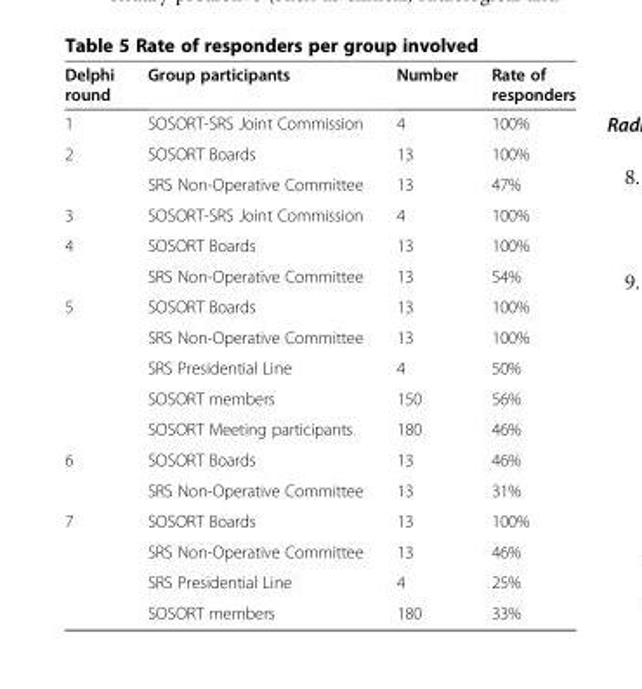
<table><thead><tr><td>Delphi round</td><td>Group participants</td><td>Number</td><td>Rate of responders</td></tr></thead><tbody><tr><td>1</td><td>SOSORT-SRS Joint Commission</td><td>4</td><td>100%</td></tr><tr><td rowspan="2">2</td><td>SOSORT Boards</td><td>13</td><td>100%</td></tr><tr><td>SRS Non-Operative Committee</td><td>13</td><td>47%</td></tr><tr><td>3</td><td>SOSORT-SRS Joint Commission</td><td>4</td><td>100%</td></tr><tr><td rowspan="2">4</td><td>SOSORT Boards</td><td>13</td><td>100%</td></tr><tr><td>SRS Non-Operative Committee</td><td>13</td><td>54%</td></tr><tr><td rowspan="5">5</td><td>SOSORT Boards</td><td>13</td><td>100%</td></tr><tr><td>SRS Non-Operative Committee</td><td>13</td><td>100%</td></tr><tr><td>SRS Presidential Line</td><td>4</td><td>50%</td></tr><tr><td>SOSORT members</td><td>150</td><td>56%</td></tr><tr><td>SOSORT Meeting participants</td><td>180</td><td>46%</td></tr><tr><td rowspan="2">6</td><td>SOSORT Boards</td><td>13</td><td>46%</td></tr><tr><td>SRS Non-Operative Committee</td><td>13</td><td>31%</td></tr><tr><td rowspan="4">7</td><td>SOSORT Boards</td><td>13</td><td>100%</td></tr><tr><td>SRS Non-Operative Committee</td><td>13</td><td>46%</td></tr><tr><td>SRS Presidential Line</td><td>4</td><td>25%</td></tr><tr><td>SOSORT members</td><td>180</td><td>33%</td></tr></tbody></table>